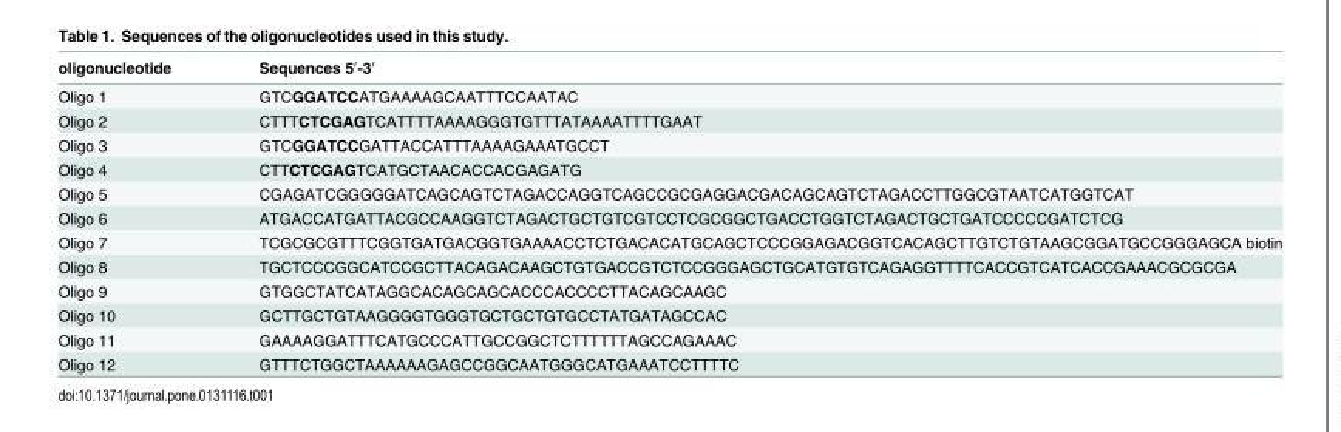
<table><thead><tr><td>oligonucleotide</td><td>Sequences 5ʹ-3ʹ</td></tr></thead><tbody><tr><td>Oligo 1</td><td>GTCGGATCCATGAAAAGCAATTTCCAATAC</td></tr><tr><td>Oligo 2</td><td>CTTTCTCGAGTCATTTTAAAAGGGTGTTTATAAAATTTTGAAT</td></tr><tr><td>Oligo 3</td><td>GTCGGATCCGATTACCATTTAAAAGAAATGCCT</td></tr><tr><td>Oligo 4</td><td>CTTCTCGAGTCATGCTAACACCACGAGATG</td></tr><tr><td>Oligo 5</td><td>CGAGATCGGGGGATCAGCAGTCTAGACCAGGTCAGCCGCGAGGACGACAGCAGTCTAGACCTTGGCGTAATCATGGTCAT</td></tr><tr><td>Oligo 6</td><td>ATGACCATGATTACGCCAAGGTCTAGACTGCTGTCGTCCTCGCGGCTGACCTGGTCTAGACTGCTGATCCCCCGATCTCG</td></tr><tr><td>Oligo 7</td><td>TCGCGCGTTTCGGTGATGACGGTGAAAACCTCTGACACATGCAGCTCCCGGAGACGGTCACAGCTTGTCTGTAAGCGGATGCCGGGAGCA biotin</td></tr><tr><td>Oligo 8</td><td>TGCTCCCGGCATCCGCTTACAGACAAGCTGTGACCGTCTCCGGGAGCTGCATGTGTCAGAGGTTTTCACCGTCATCACCGAAACGCGCGA</td></tr><tr><td>Oligo 9</td><td>GTGGCTATCATAGGCACAGCAGCACCCACCCCTTACAGCAAGC</td></tr><tr><td>Oligo 10</td><td>GCTTGCTGTAAGGGGTGGGTGCTGCTGTGCCTATGATAGCCAC</td></tr><tr><td>Oligo 11</td><td>GAAAAGGATTTCATGCCCATTGCCGGCTCTTTTTTAGCCAGAAAC</td></tr><tr><td>Oligo 12</td><td>GTTTCTGGCTAAAAAAGAGCCGGCAATGGGCATGAAATCCTTTTC</td></tr></tbody></table>